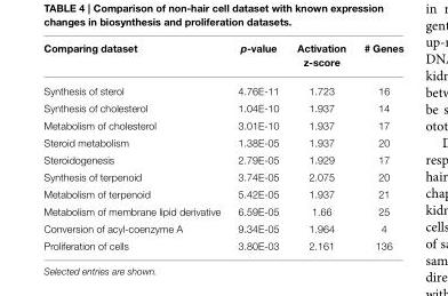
<table><thead><tr><td>Comparing dataset</td><td>p-value</td><td>Activation z-score</td><td># Genes</td></tr></thead><tbody><tr><td>Synthesis of sterol</td><td>4.76E-11</td><td>1.723</td><td>16</td></tr><tr><td>Synthesis of cholesterol</td><td>1.04E-10</td><td>1.937</td><td>14</td></tr><tr><td>Metabolism of cholesterol</td><td>3.01E-10</td><td>1.937</td><td>17</td></tr><tr><td>Steroid metabolism</td><td>1.38E-05</td><td>1.937</td><td>20</td></tr><tr><td>Steroidogenesis</td><td>2.79E-05</td><td>1.929</td><td>17</td></tr><tr><td>Synthesis of terpenoid</td><td>3.74E-05</td><td>2.075</td><td>20</td></tr><tr><td>Metabolism of terpenoid</td><td>5.42E-05</td><td>1.937</td><td>21</td></tr><tr><td>Metabolism of membrane lipid derivative</td><td>6.59E-05</td><td>1.66</td><td>25</td></tr><tr><td>Conversion of acyl-coenzyme A</td><td>9.34E-05</td><td>1.964</td><td>4</td></tr><tr><td>Proliferation of cells</td><td>3.80E-03</td><td>2.161</td><td>136</td></tr></tbody></table>